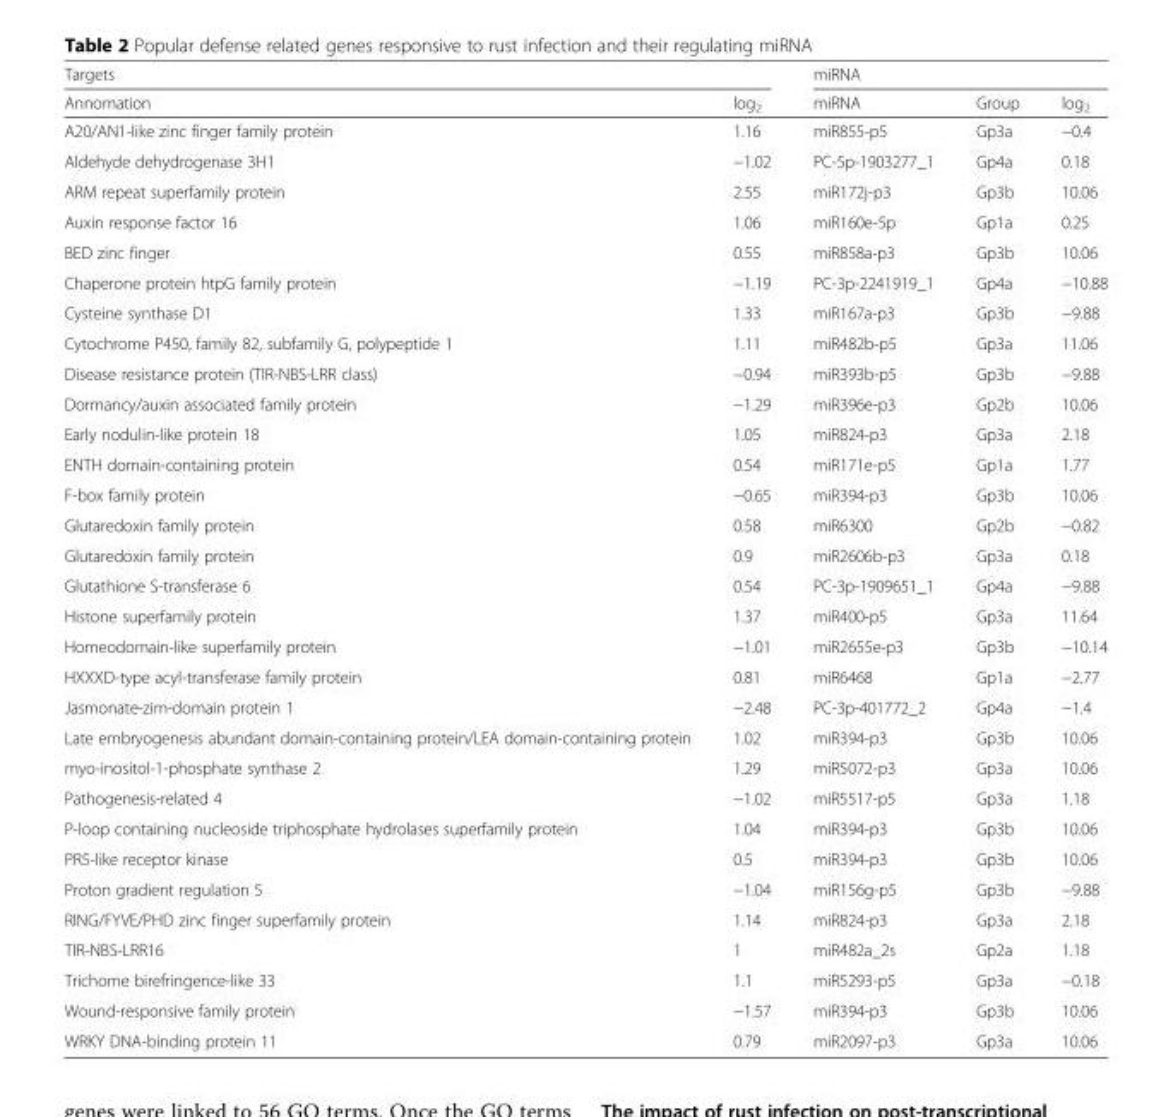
<table><thead><tr><td colspan="2">Targets</td><td colspan="3">miRNA</td></tr><tr><td>Annomation</td><td>log<sub>2</sub></td><td>miRNA</td><td>Group</td><td>log<sub>2</sub></td></tr></thead><tbody><tr><td>A20/AN1-like zinc finger family protein</td><td>1.16</td><td>miR855-p5</td><td>Gp3a</td><td>−0.4</td></tr><tr><td>Aldehyde dehydrogenase 3H1</td><td>−1.02</td><td>PC-5p-1903277_1</td><td>Gp4a</td><td>0.18</td></tr><tr><td>ARM repeat superfamily protein</td><td>2.55</td><td>miR172j-p3</td><td>Gp3b</td><td>10.06</td></tr><tr><td>Auxin response factor 16</td><td>1.06</td><td>miR160e-5p</td><td>Gp1a</td><td>0.25</td></tr><tr><td>BED zinc finger</td><td>0.55</td><td>miR858a-p3</td><td>Gp3b</td><td>10.06</td></tr><tr><td>Chaperone protein htpG family protein</td><td>−1.19</td><td>PC-3p-2241919_1</td><td>Gp4a</td><td>−10.88</td></tr><tr><td>Cysteine synthase D1</td><td>1.33</td><td>miR167a-p3</td><td>Gp3b</td><td>−9.88</td></tr><tr><td>Cytochrome P450, family 82, subfamily G, polypeptide 1</td><td>1.11</td><td>miR482b-p5</td><td>Gp3a</td><td>11.06</td></tr><tr><td>Disease resistance protein (TIR-NBS-LRR class)</td><td>−0.94</td><td>miR393b-p5</td><td>Gp3b</td><td>−9.88</td></tr><tr><td>Dormancy/auxin associated family protein</td><td>−1.29</td><td>miR396e-p3</td><td>Gp2b</td><td>10.06</td></tr><tr><td>Early nodulin-like protein 18</td><td>1.05</td><td>miR824-p3</td><td>Gp3a</td><td>2.18</td></tr><tr><td>ENTH domain-containing protein</td><td>0.54</td><td>miR171e-p5</td><td>Gp1a</td><td>1.77</td></tr><tr><td>F-box family protein</td><td>−0.65</td><td>miR394-p3</td><td>Gp3b</td><td>10.06</td></tr><tr><td>Glutaredoxin family protein</td><td>0.58</td><td>miR6300</td><td>Gp2b</td><td>−0.82</td></tr><tr><td>Glutaredoxin family protein</td><td>0.9</td><td>miR2606b-p3</td><td>Gp3a</td><td>0.18</td></tr><tr><td>Glutathione S-transferase 6</td><td>0.54</td><td>PC-3p-1909651_1</td><td>Gp4a</td><td>−9.88</td></tr><tr><td>Histone superfamily protein</td><td>1.37</td><td>miR400-p5</td><td>Gp3a</td><td>11.64</td></tr><tr><td>Homeodomain-like superfamily protein</td><td>−1.01</td><td>miR2655e-p3</td><td>Gp3b</td><td>−10.14</td></tr><tr><td>HXXXD-type acyl-transferase family protein</td><td>0.81</td><td>miR6468</td><td>Gp1a</td><td>−2.77</td></tr><tr><td>Jasmonate-zim-domain protein 1</td><td>−2.48</td><td>PC-3p-401772_2</td><td>Gp4a</td><td>−1.4</td></tr><tr><td>Late embryogenesis abundant domain-containing protein/LEA domain-containing protein</td><td>1.02</td><td>miR394-p3</td><td>Gp3b</td><td>10.06</td></tr><tr><td>myo-inositol-1-phosphate synthase 2</td><td>1.29</td><td>miR5072-p3</td><td>Gp3a</td><td>10.06</td></tr><tr><td>Pathogenesis-related 4</td><td>−1.02</td><td>miR5517-p5</td><td>Gp3a</td><td>1.18</td></tr><tr><td>P-loop containing nucleoside triphosphate hydrolases superfamily protein</td><td>1.04</td><td>miR394-p3</td><td>Gp3b</td><td>10.06</td></tr><tr><td>PR5-like receptor kinase</td><td>0.5</td><td>miR394-p3</td><td>Gp3b</td><td>10.06</td></tr><tr><td>Proton gradient regulation 5</td><td>−1.04</td><td>miR156g-p5</td><td>Gp3b</td><td>−9.88</td></tr><tr><td>RING/FYVE/PHD zinc finger superfamily protein</td><td>1.14</td><td>miR824-p3</td><td>Gp3a</td><td>2.18</td></tr><tr><td>TIR-NBS-LRR16</td><td>1</td><td>miR482a_2s</td><td>Gp2a</td><td>1.18</td></tr><tr><td>Trichome birefringence-like 33</td><td>1.1</td><td>miR5293-p5</td><td>Gp3a</td><td>−0.18</td></tr><tr><td>Wound-responsive family protein</td><td>−1.57</td><td>miR394-p3</td><td>Gp3b</td><td>10.06</td></tr><tr><td>WRKY DNA-binding protein 11</td><td>0.79</td><td>miR2097-p3</td><td>Gp3a</td><td>10.06</td></tr></tbody></table>